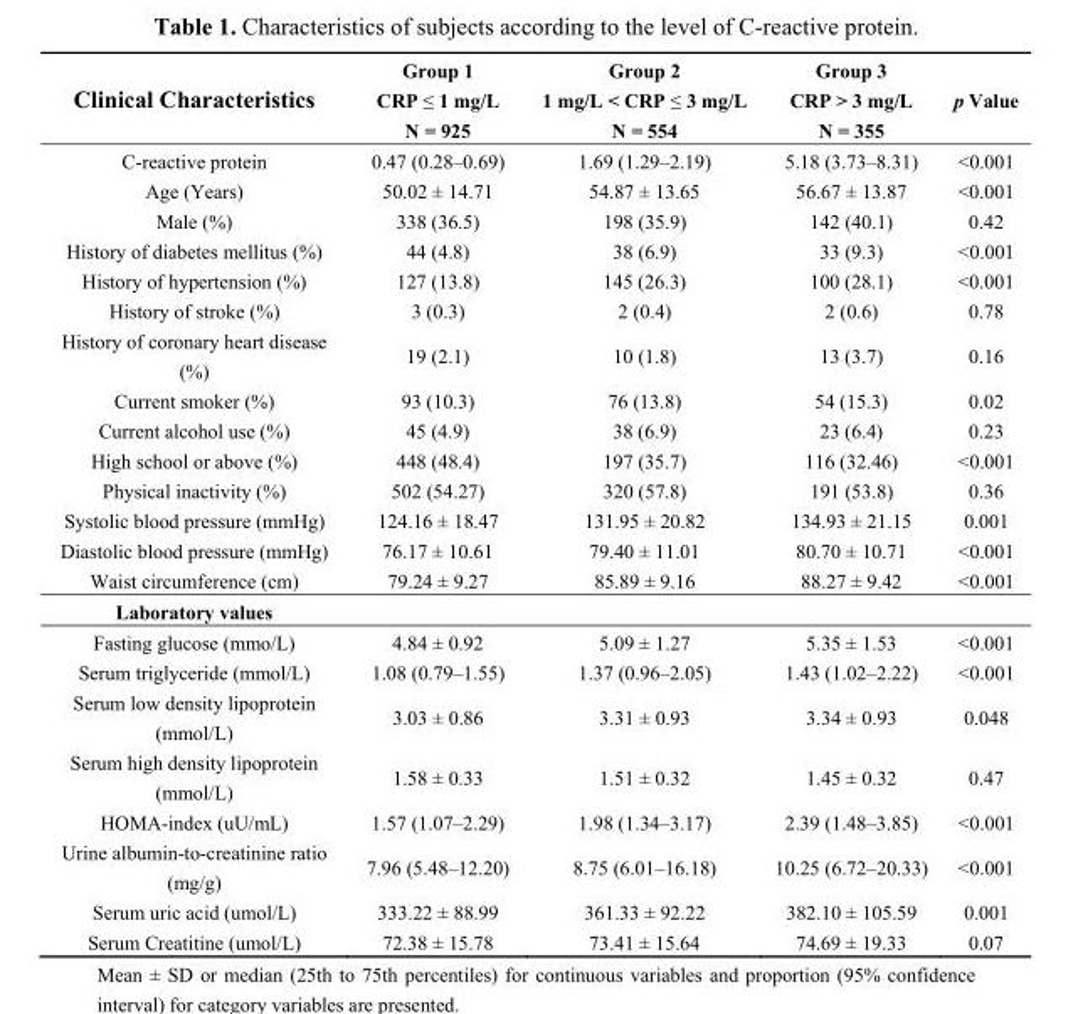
<table><thead><tr><td rowspan="3">Clinical Characteristics</td><td rowspan="3">Group 1 CRP ≤ 1 mg/L N = 925</td><td rowspan="3">Group 2 1 mg/L &lt; CRP ≤ 3 mg/L N = 554</td><td rowspan="3">Group 3 CRP &gt; 3 mg/L N = 355</td><td rowspan="3">p Value</td></tr><tr></tr><tr></tr></thead><tbody><tr><td>C-reactive protein</td><td>0.47 (0.28–0.69)</td><td>1.69 (1.29–2.19)</td><td>5.18 (3.73–8.31)</td><td>&lt;0.001</td></tr><tr><td>Age (Years)</td><td>50.02 ± 14.71</td><td>54.87 ± 13.65</td><td>56.67 ± 13.87</td><td>&lt;0.001</td></tr><tr><td>Male (%)</td><td>338 (36.5)</td><td>198 (35.9)</td><td>142 (40.1)</td><td>0.42</td></tr><tr><td>History of diabetes mellitus (%)</td><td>44 (4.8)</td><td>38 (6.9)</td><td>33 (9.3)</td><td>&lt;0.001</td></tr><tr><td>History of hypertension (%)</td><td>127 (13.8)</td><td>145 (26.3)</td><td>100 (28.1)</td><td>&lt;0.001</td></tr><tr><td>History of stroke (%)</td><td>3 (0.3)</td><td>2 (0.4)</td><td>2 (0.6)</td><td>0.78</td></tr><tr><td>History of coronary heart disease (%)</td><td>19 (2.1)</td><td>10 (1.8)</td><td>13 (3.7)</td><td>0.16</td></tr><tr><td>Current smoker (%)</td><td>93 (10.3)</td><td>76 (13.8)</td><td>54 (15.3)</td><td>0.02</td></tr><tr><td>Current alcohol use (%)</td><td>45 (4.9)</td><td>38 (6.9)</td><td>23 (6.4)</td><td>0.23</td></tr><tr><td>High school or above (%)</td><td>448 (48.4)</td><td>197 (35.7)</td><td>116 (32.46)</td><td>&lt;0.001</td></tr><tr><td>Physical inactivity (%)</td><td>502 (54.27)</td><td>320 (57.8)</td><td>191 (53.8)</td><td>0.36</td></tr><tr><td>Systolic blood pressure (mmHg)</td><td>124.16 ± 18.47</td><td>131.95 ± 20.82</td><td>134.93 ± 21.15</td><td>0.001</td></tr><tr><td>Diastolic blood pressure (mmHg)</td><td>76.17 ± 10.61</td><td>79.40 ± 11.01</td><td>80.70 ± 10.71</td><td>&lt;0.001</td></tr><tr><td>Waist circumference (cm)</td><td>79.24 ± 9.27</td><td>85.89 ± 9.16</td><td>88.27 ± 9.42</td><td>&lt;0.001</td></tr><tr><td colspan="5">Laboratory values</td></tr><tr><td>Fasting glucose (mmo/L)</td><td>4.84 ± 0.92</td><td>5.09 ± 1.27</td><td>5.35 ± 1.53</td><td>&lt;0.001</td></tr><tr><td>Serum triglyceride (mmol/L)</td><td>1.08 (0.79–1.55)</td><td>1.37 (0.96–2.05)</td><td>1.43 (1.02–2.22)</td><td>&lt;0.001</td></tr><tr><td>Serum low density lipoprotein (mmol/L)</td><td>3.03 ± 0.86</td><td>3.31 ± 0.93</td><td>3.34 ± 0.93</td><td>0.048</td></tr><tr><td>Serum high density lipoprotein (mmol/L)</td><td>1.58 ± 0.33</td><td>1.51 ± 0.32</td><td>1.45 ± 0.32</td><td>0.47</td></tr><tr><td>HOMA-index (uU/mL)</td><td>1.57 (1.07–2.29)</td><td>1.98 (1.34–3.17)</td><td>2.39 (1.48–3.85)</td><td>&lt;0.001</td></tr><tr><td>Urine albumin-to-creatinine ratio (mg/g)</td><td>7.96 (5.48–12.20)</td><td>8.75 (6.01–16.18)</td><td>10.25 (6.72–20.33)</td><td>&lt;0.001</td></tr><tr><td>Serum uric acid (umol/L)</td><td>333.22 ± 88.99</td><td>361.33 ± 92.22</td><td>382.10 ± 105.59</td><td>0.001</td></tr><tr><td>Serum Creatitine (umol/L)</td><td>72.38 ± 15.78</td><td>73.41 ± 15.64</td><td>74.69 ± 19.33</td><td>0.07</td></tr></tbody></table>